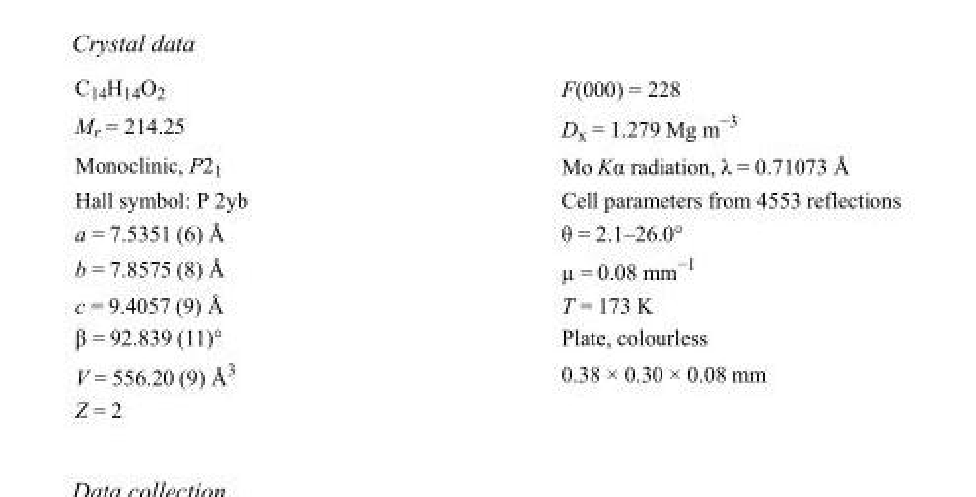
<table><tbody><tr><td>C<sub>14</sub>H<sub>14</sub>O<sub>2</sub></td><td>F(000) = 228</td></tr><tr><td>M<sub>r</sub> = 214.25</td><td>D<sub>x</sub> = 1.279 Mg m<sup>−3</sup></td></tr><tr><td>Monoclinic, P2<sub>1</sub></td><td>Mo Kα radiation, λ = 0.71073 Å</td></tr><tr><td>Hall symbol: P 2yb</td><td>Cell parameters from 4553 reflections</td></tr><tr><td>a = 7.5351 (6) Å</td><td>θ = 2.1–26.0°</td></tr><tr><td>b = 7.8575 (8) Å</td><td>µ = 0.08 mm<sup>−1</sup></td></tr><tr><td>c = 9.4057 (9) Å</td><td>T = 173 K</td></tr><tr><td>β = 92.839 (11)°</td><td>Plate, colourless</td></tr><tr><td>V = 556.20 (9) Å<sup>3</sup></td><td>0.38 × 0.30 × 0.08 mm</td></tr><tr><td>Z = 2</td><td></td></tr></tbody></table>